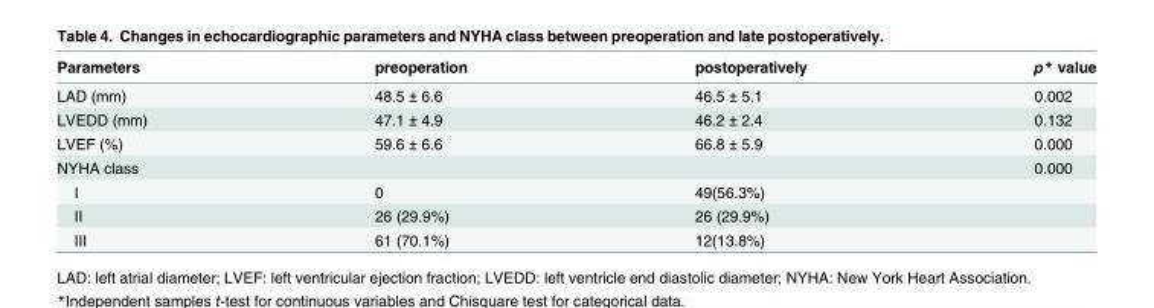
<table><thead><tr><td>Parameters</td><td>preoperation</td><td>postoperatively</td><td>p* value</td></tr></thead><tbody><tr><td>LAD (mm)</td><td>48.5 ± 6.6</td><td>46.5 ± 5.1</td><td>0.002</td></tr><tr><td>LVEDD (mm)</td><td>47.1 ± 4.9</td><td>46.2 ± 2.4</td><td>0.132</td></tr><tr><td>LVEF (%)</td><td>59.6 ± 6.6</td><td>66.8 ± 5.9</td><td>0.000</td></tr><tr><td>NYHA class</td><td></td><td></td><td>0.000</td></tr><tr><td>I</td><td>0</td><td>49(56.3%)</td><td></td></tr><tr><td>II</td><td>26 (29.9%)</td><td>26 (29.9%)</td><td></td></tr><tr><td>III</td><td>61 (70.1%)</td><td>12(13.8%)</td><td></td></tr></tbody></table>